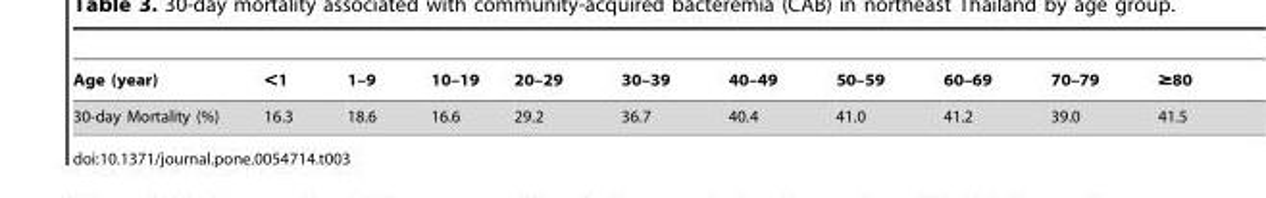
<table><thead><tr><td>Age (year)</td><td>&lt;1</td><td>1–9</td><td>10–19</td><td>20–29</td><td>30–39</td><td>40–49</td><td>50–59</td><td>60–69</td><td>70–79</td><td>≥80</td></tr></thead><tbody><tr><td>30-day Mortality (%)</td><td>16.3</td><td>18.6</td><td>16.6</td><td>29.2</td><td>36.7</td><td>40.4</td><td>41.0</td><td>41.2</td><td>39.0</td><td>41.5</td></tr></tbody></table>